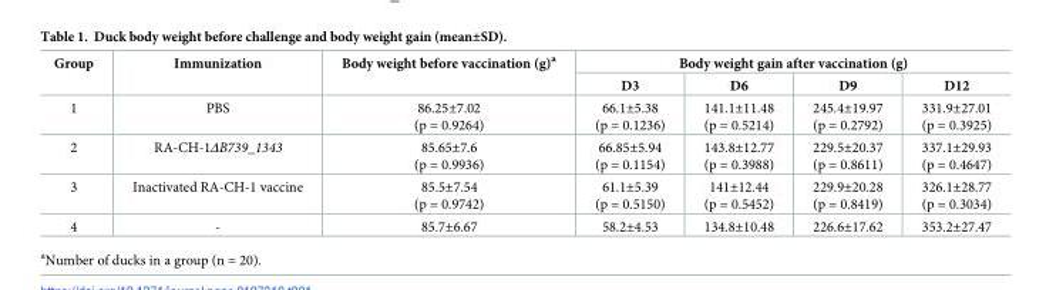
<table><thead><tr><td rowspan="2">Group</td><td rowspan="2">Immunization</td><td rowspan="2">Body weight before vaccination (g)<sup>a</sup></td><td colspan="4">Body weight gain after vaccination (g)</td></tr><tr><td>D3</td><td>D6</td><td>D9</td><td>D12</td></tr></thead><tbody><tr><td>1</td><td>PBS</td><td>86.25±7.02 (p = 0.9264)</td><td>66.1±5.38 (p = 0.1236)</td><td>141.1±11.48 (p = 0.5214)</td><td>245.4±19.97 (p = 0.2792)</td><td>331.9±27.01 (p = 0.3925)</td></tr><tr><td>2</td><td>RA-CH-1ΔB739_1343</td><td>85.65±7.6 (p = 0.9936)</td><td>66.85±5.94 (p = 0.1154)</td><td>143.8±12.77 (p = 0.3988)</td><td>229.5±20.37 (p = 0.8611)</td><td>337.1±29.93 (p = 0.4647)</td></tr><tr><td>3</td><td>Inactivated RA-CH-1 vaccine</td><td>85.5±7.54 (p = 0.9742)</td><td>61.1±5.39 (p = 0.5150)</td><td>141±12.44 (p = 0.5452)</td><td>229.9±20.28 (p = 0.8419)</td><td>326.1±28.77 (p = 0.3034)</td></tr><tr><td>4</td><td>-</td><td>85.7±6.67</td><td>58.2±4.53</td><td>134.8±10.48</td><td>226.6±17.62</td><td>353.2±27.47</td></tr></tbody></table>